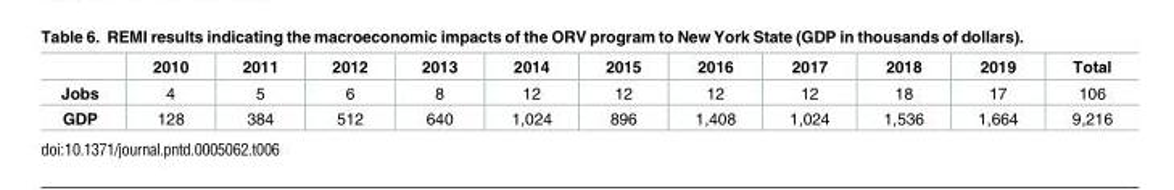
<table><thead><tr><td></td><td>2010</td><td>2011</td><td>2012</td><td>2013</td><td>2014</td><td>2015</td><td>2016</td><td>2017</td><td>2018</td><td>2019</td><td>Total</td></tr></thead><tbody><tr><td>Jobs</td><td>4</td><td>5</td><td>6</td><td>8</td><td>12</td><td>12</td><td>12</td><td>12</td><td>18</td><td>17</td><td>106</td></tr><tr><td>GDP</td><td>128</td><td>384</td><td>512</td><td>640</td><td>1,024</td><td>896</td><td>1,408</td><td>1,024</td><td>1,536</td><td>1,664</td><td>9,216</td></tr></tbody></table>